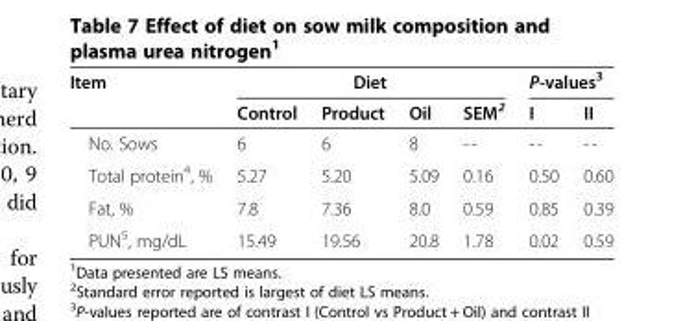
<table><thead><tr><td rowspan="2">Item</td><td colspan="4">Diet</td><td colspan="2">P-values<sup>3</sup></td></tr><tr><td>Control</td><td>Product</td><td>Oil</td><td>SEM<sup>2</sup></td><td>I</td><td>II</td></tr></thead><tbody><tr><td>No. Sows</td><td>6</td><td>6</td><td>8</td><td>--</td><td>--</td><td>--</td></tr><tr><td>Total protein<sup>4</sup>, %</td><td>5.27</td><td>5.20</td><td>5.09</td><td>0.16</td><td>0.50</td><td>0.60</td></tr><tr><td>Fat, %</td><td>7.8</td><td>7.36</td><td>8.0</td><td>0.59</td><td>0.85</td><td>0.39</td></tr><tr><td>PUN<sup>5</sup>, mg/dL</td><td>15.49</td><td>19.56</td><td>20.8</td><td>1.78</td><td>0.02</td><td>0.59</td></tr></tbody></table>